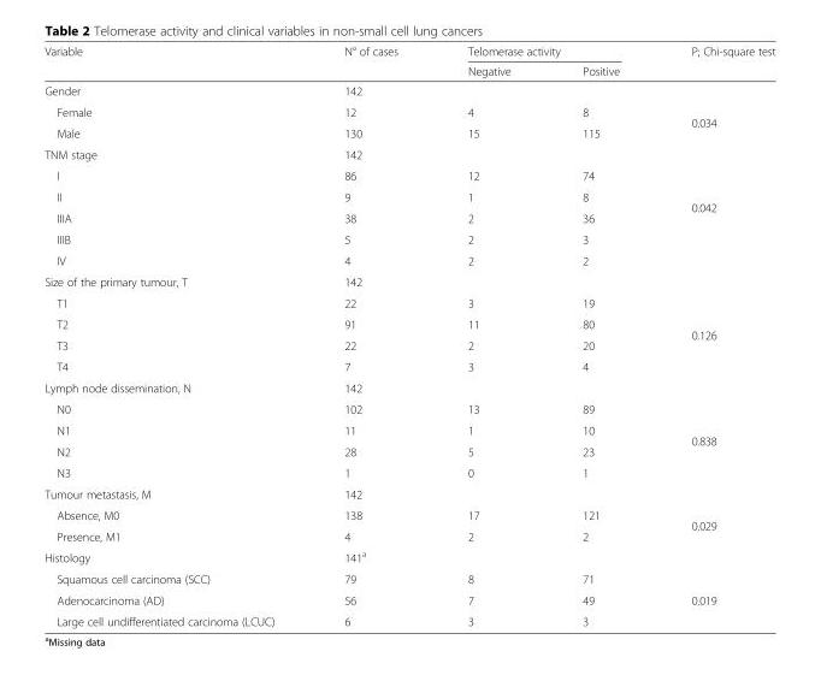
<table><thead><tr><td rowspan="2">Variable</td><td rowspan="2">N° of cases</td><td colspan="2">Telomerase activity</td><td rowspan="2">P; Chi-square test</td></tr><tr><td>Negative</td><td>Positive</td></tr></thead><tbody><tr><td>Gender</td><td>142</td><td></td><td></td><td></td></tr><tr><td>Female</td><td>12</td><td>4</td><td>8</td><td rowspan="2">0.034</td></tr><tr><td>Male</td><td>130</td><td>15</td><td>115</td></tr><tr><td>TNM stage</td><td>142</td><td></td><td></td><td></td></tr><tr><td>I</td><td>86</td><td>12</td><td>74</td><td rowspan="4">0.042</td></tr><tr><td>II</td><td>9</td><td>1</td><td>8</td></tr><tr><td>IIIA</td><td>38</td><td>2</td><td>36</td></tr><tr><td>IIIB</td><td>5</td><td>2</td><td>3</td></tr><tr><td>IV</td><td>4</td><td>2</td><td>2</td><td></td></tr><tr><td>Size of the primary tumour, T</td><td>142</td><td></td><td></td><td></td></tr><tr><td>T1</td><td>22</td><td>3</td><td>19</td><td rowspan="4">0.126</td></tr><tr><td>T2</td><td>91</td><td>11</td><td>80</td></tr><tr><td>T3</td><td>22</td><td>2</td><td>20</td></tr><tr><td>T4</td><td>7</td><td>3</td><td>4</td></tr><tr><td>Lymph node dissemination, N</td><td>142</td><td></td><td></td><td></td></tr><tr><td>N0</td><td>102</td><td>13</td><td>89</td><td rowspan="4">0.838</td></tr><tr><td>N1</td><td>11</td><td>1</td><td>10</td></tr><tr><td>N2</td><td>28</td><td>5</td><td>23</td></tr><tr><td>N3</td><td>1</td><td>0</td><td>1</td></tr><tr><td>Tumour metastasis, M</td><td>142</td><td></td><td></td><td></td></tr><tr><td>Absence, M0</td><td>138</td><td>17</td><td>121</td><td rowspan="2">0.029</td></tr><tr><td>Presence, M1</td><td>4</td><td>2</td><td>2</td></tr><tr><td>Histology</td><td>141<sup>a</sup></td><td></td><td></td><td></td></tr><tr><td>Squamous cell carcinoma (SCC)</td><td>79</td><td>8</td><td>71</td><td rowspan="3">0.019</td></tr><tr><td>Adenocarcinoma (AD)</td><td>56</td><td>7</td><td>49</td></tr><tr><td>Large cell undifferentiated carcinoma (LCUC)</td><td>6</td><td>3</td><td>3</td></tr></tbody></table>